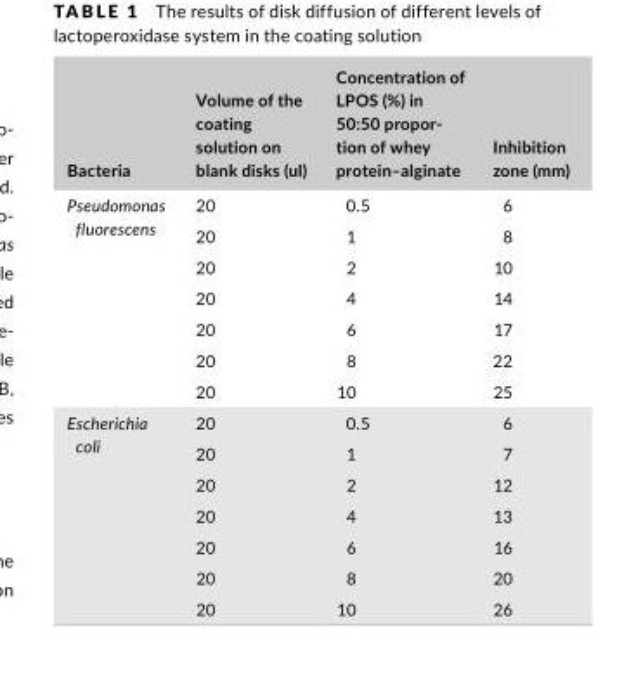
<table><thead><tr><td>Bacteria</td><td>Volume of the coating solution on blank disks (ul)</td><td>Concentration of LPOS (%) in 50:50 propor- tion of whey protein–alginate</td><td>Inhibition zone (mm)</td></tr></thead><tbody><tr><td rowspan="7">Pseudomonas fluorescens</td><td>20</td><td>0.5</td><td>6</td></tr><tr><td>20</td><td>1</td><td>8</td></tr><tr><td>20</td><td>2</td><td>10</td></tr><tr><td>20</td><td>4</td><td>14</td></tr><tr><td>20</td><td>6</td><td>17</td></tr><tr><td>20</td><td>8</td><td>22</td></tr><tr><td>20</td><td>10</td><td>25</td></tr><tr><td rowspan="7">Escherichia coli</td><td>20</td><td>0.5</td><td>6</td></tr><tr><td>20</td><td>1</td><td>7</td></tr><tr><td>20</td><td>2</td><td>12</td></tr><tr><td>20</td><td>4</td><td>13</td></tr><tr><td>20</td><td>6</td><td>16</td></tr><tr><td>20</td><td>8</td><td>20</td></tr><tr><td>20</td><td>10</td><td>26</td></tr></tbody></table>